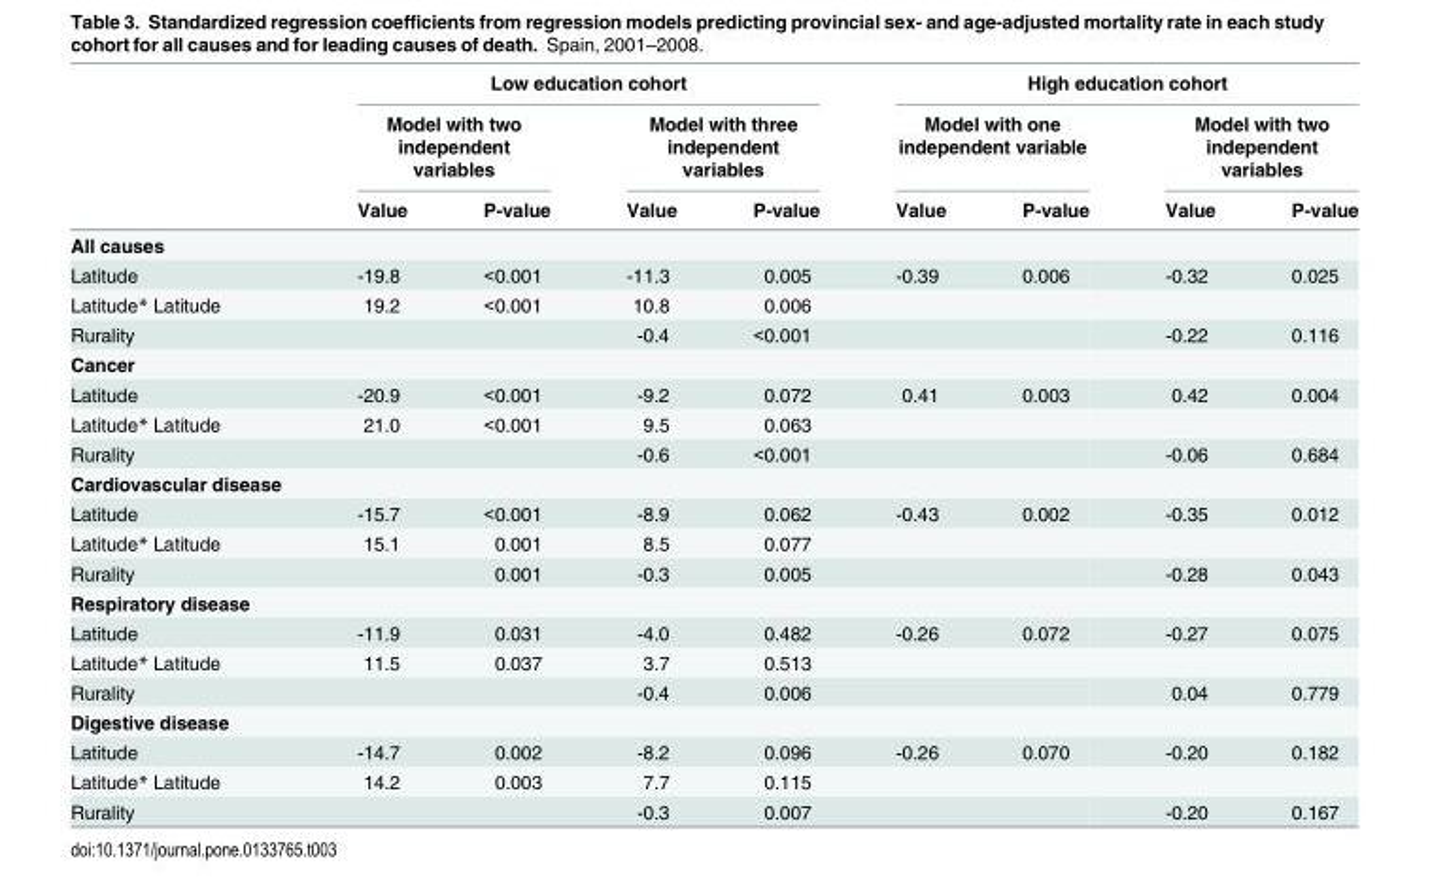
<table><thead><tr><td rowspan="3"></td><td colspan="4">Low education cohort</td><td colspan="4">High education cohort</td></tr><tr><td colspan="2">Model with two independent variables</td><td colspan="2">Model with three independent variables</td><td colspan="2">Model with one independent variable</td><td colspan="2">Model with two independent variables</td></tr><tr><td>Value</td><td>P-value</td><td>Value</td><td>P-value</td><td>Value</td><td>P-value</td><td>Value</td><td>P-value</td></tr></thead><tbody><tr><td colspan="9">All causes</td></tr><tr><td>Latitude</td><td>-19.8</td><td>&lt;0.001</td><td>-11.3</td><td>0.005</td><td>-0.39</td><td>0.006</td><td>-0.32</td><td>0.025</td></tr><tr><td>Latitude* Latitude</td><td>19.2</td><td>&lt;0.001</td><td>10.8</td><td>0.006</td><td></td><td></td><td></td><td></td></tr><tr><td>Rurality</td><td></td><td></td><td>-0.4</td><td>&lt;0.001</td><td></td><td></td><td>-0.22</td><td>0.116</td></tr><tr><td colspan="9">Cancer</td></tr><tr><td>Latitude</td><td>-20.9</td><td>&lt;0.001</td><td>-9.2</td><td>0.072</td><td>0.41</td><td>0.003</td><td>0.42</td><td>0.004</td></tr><tr><td>Latitude* Latitude</td><td>21.0</td><td>&lt;0.001</td><td>9.5</td><td>0.063</td><td></td><td></td><td></td><td></td></tr><tr><td>Rurality</td><td></td><td></td><td>-0.6</td><td>&lt;0.001</td><td></td><td></td><td>-0.06</td><td>0.684</td></tr><tr><td colspan="9">Cardiovascular disease</td></tr><tr><td>Latitude</td><td>-15.7</td><td>&lt;0.001</td><td>-8.9</td><td>0.062</td><td>-0.43</td><td>0.002</td><td>-0.35</td><td>0.012</td></tr><tr><td>Latitude* Latitude</td><td>15.1</td><td>0.001</td><td>8.5</td><td>0.077</td><td></td><td></td><td></td><td></td></tr><tr><td>Rurality</td><td></td><td>0.001</td><td>-0.3</td><td>0.005</td><td></td><td></td><td>-0.28</td><td>0.043</td></tr><tr><td colspan="9">Respiratory disease</td></tr><tr><td>Latitude</td><td>-11.9</td><td>0.031</td><td>-4.0</td><td>0.482</td><td>-0.26</td><td>0.072</td><td>-0.27</td><td>0.075</td></tr><tr><td>Latitude* Latitude</td><td>11.5</td><td>0.037</td><td>3.7</td><td>0.513</td><td></td><td></td><td></td><td></td></tr><tr><td>Rurality</td><td></td><td></td><td>-0.4</td><td>0.006</td><td></td><td></td><td>0.04</td><td>0.779</td></tr><tr><td colspan="9">Digestive disease</td></tr><tr><td>Latitude</td><td>-14.7</td><td>0.002</td><td>-8.2</td><td>0.096</td><td>-0.26</td><td>0.070</td><td>-0.20</td><td>0.182</td></tr><tr><td>Latitude* Latitude</td><td>14.2</td><td>0.003</td><td>7.7</td><td>0.115</td><td></td><td></td><td></td><td></td></tr><tr><td>Rurality</td><td></td><td></td><td>-0.3</td><td>0.007</td><td></td><td></td><td>-0.20</td><td>0.167</td></tr></tbody></table>